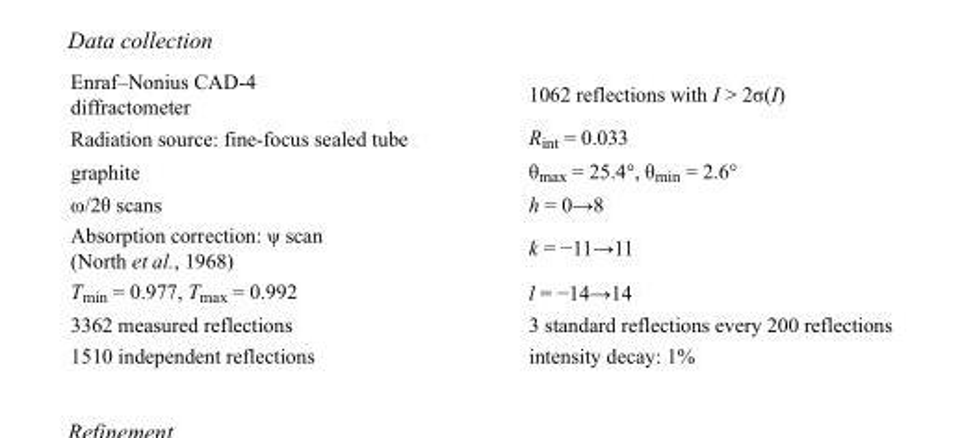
<table><tbody><tr><td>Enraf–Nonius CAD-4 diffractometer</td><td>1062 reflections with I &gt; 2σ(I)</td></tr><tr><td>Radiation source: fine-focus sealed tube</td><td>R<sub>int</sub> = 0.033</td></tr><tr><td>graphite</td><td>θ<sub>max</sub> = 25.4°, θ<sub>min</sub> = 2.6°</td></tr><tr><td>ω/2θ scans</td><td>h = 0→8</td></tr><tr><td>Absorption correction: ψ scan (North et al., 1968)</td><td>k = −11→11</td></tr><tr><td>T<sub>min</sub> = 0.977, T<sub>max</sub> = 0.992</td><td>l = −14→14</td></tr><tr><td>3362 measured reflections</td><td>3 standard reflections every 200 reflections</td></tr><tr><td>1510 independent reflections</td><td>intensity decay: 1%</td></tr></tbody></table>